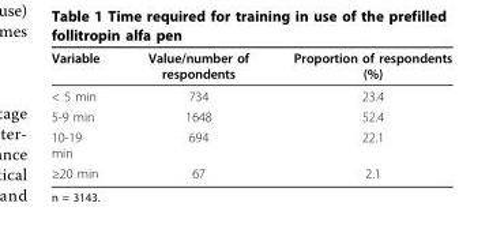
<table><thead><tr><td>Variable</td><td>Value/number of respondents</td><td>Proportion of respondents (%)</td></tr></thead><tbody><tr><td>&lt; 5 min</td><td>734</td><td>23.4</td></tr><tr><td>5-9 min</td><td>1648</td><td>52.4</td></tr><tr><td>10-19 min</td><td>694</td><td>22.1</td></tr><tr><td>≥20 min</td><td>67</td><td>2.1</td></tr></tbody></table>